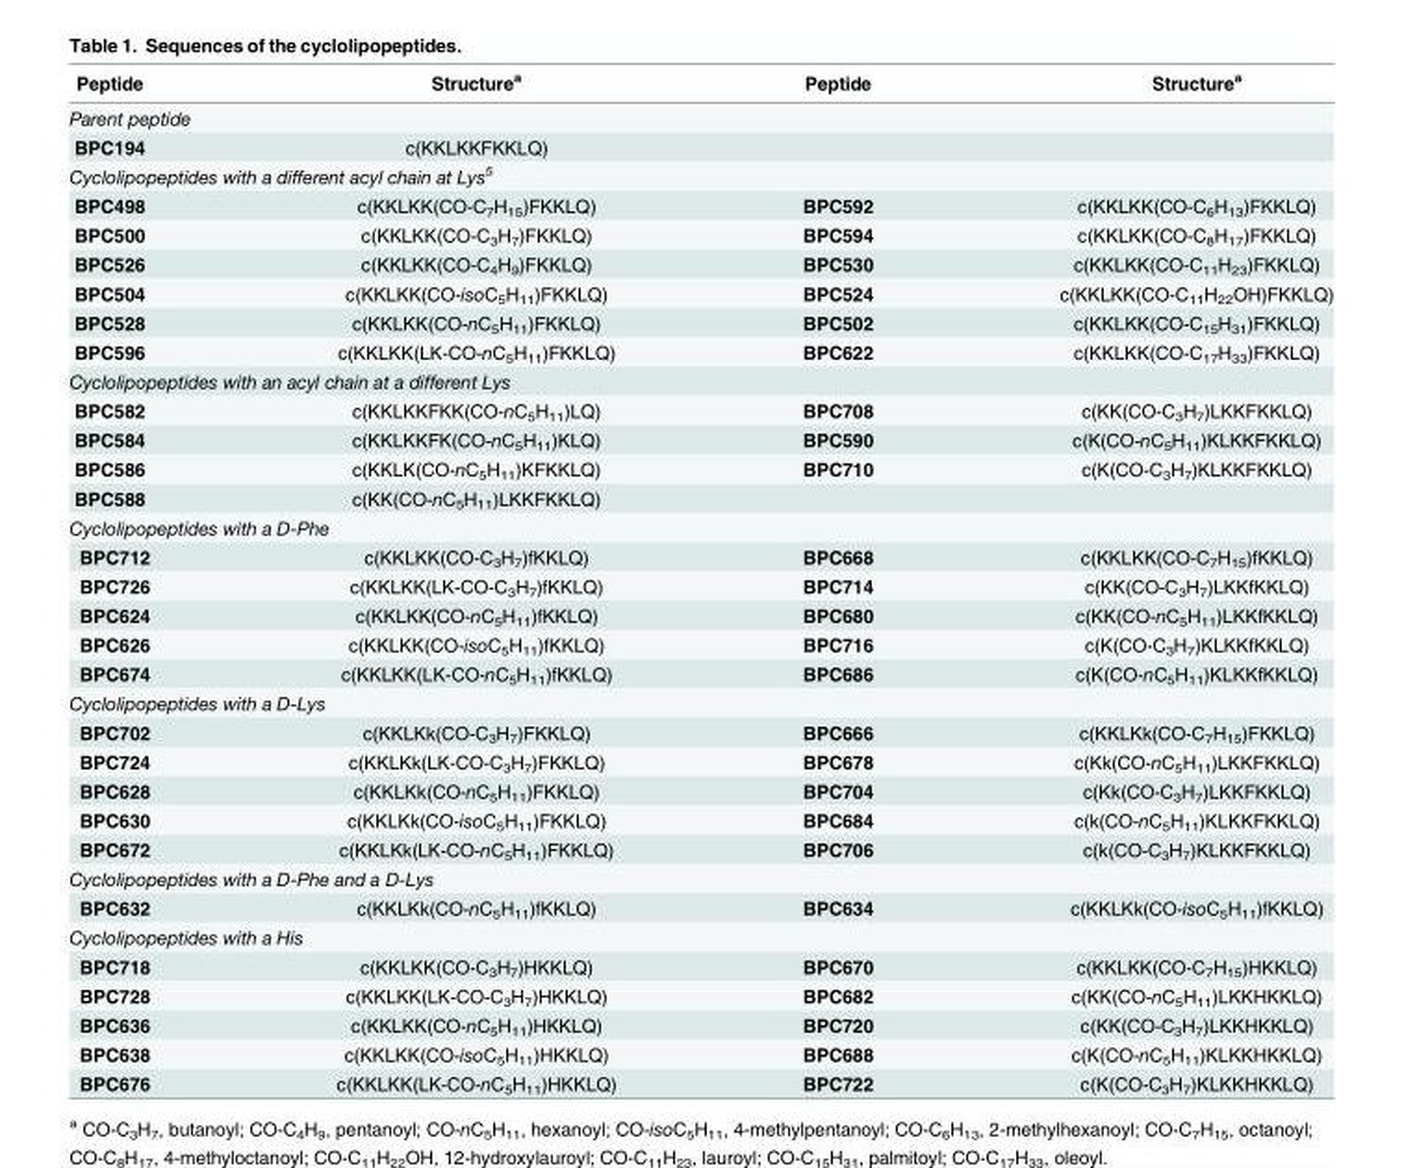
<table><thead><tr><td>Peptide</td><td>Structure<sup>a</sup></td><td>Peptide</td><td>Structure<sup>a</sup></td></tr></thead><tbody><tr><td colspan="4">Parent peptide</td></tr><tr><td>BPC194</td><td>c(KKLKKFKKLQ)</td><td></td><td></td></tr><tr><td colspan="4">Cyclolipopeptides with a different acyl chain at Lys<sup>5</sup></td></tr><tr><td>BPC498</td><td>c(KKLKK(CO-C<sub>7</sub>H<sub>15</sub>)FKKLQ)</td><td>BPC592</td><td>c(KKLKK(CO-C<sub>6</sub>H<sub>13</sub>)FKKLQ)</td></tr><tr><td>BPC500</td><td>c(KKLKK(CO-C<sub>3</sub>H<sub>7</sub>)FKKLQ)</td><td>BPC594</td><td>c(KKLKK(CO-C<sub>8</sub>H<sub>17</sub>)FKKLQ)</td></tr><tr><td>BPC526</td><td>c(KKLKK(CO-C<sub>4</sub>H<sub>9</sub>)FKKLQ)</td><td>BPC530</td><td>c(KKLKK(CO-C<sub>11</sub>H<sub>23</sub>)FKKLQ)</td></tr><tr><td>BPC504</td><td>c(KKLKK(CO-isoC<sub>5</sub>H<sub>11</sub>)FKKLQ)</td><td>BPC524</td><td>c(KKLKK(CO-C<sub>11</sub>H<sub>22</sub>OH)FKKLQ)</td></tr><tr><td>BPC528</td><td>c(KKLKK(CO-nC<sub>5</sub>H<sub>11</sub>)FKKLQ)</td><td>BPC502</td><td>c(KKLKK(CO-C<sub>15</sub>H<sub>31</sub>)FKKLQ)</td></tr><tr><td>BPC596</td><td>c(KKLKK(LK-CO-nC<sub>5</sub>H<sub>11</sub>)FKKLQ)</td><td>BPC622</td><td>c(KKLKK(CO-C<sub>17</sub>H<sub>33</sub>)FKKLQ)</td></tr><tr><td colspan="4">Cyclolipopeptides with an acyl chain at a different Lys</td></tr><tr><td>BPC582</td><td>c(KKLKKFKK(CO-nC<sub>5</sub>H<sub>11</sub>)LQ)</td><td>BPC708</td><td>c(KK(CO-C<sub>3</sub>H<sub>7</sub>)LKKFKKLQ)</td></tr><tr><td>BPC584</td><td>c(KKLKKFK(CO-nC<sub>5</sub>H<sub>11</sub>)KLQ)</td><td>BPC590</td><td>c(K(CO-nC<sub>5</sub>H<sub>11</sub>)KLKKFKKLQ)</td></tr><tr><td>BPC586</td><td>c(KKLK(CO-nC<sub>5</sub>H<sub>11</sub>)KFKKLQ)</td><td>BPC710</td><td>c(K(CO-C<sub>3</sub>H<sub>7</sub>)KLKKFKKLQ)</td></tr><tr><td>BPC588</td><td>c(KK(CO-nC<sub>5</sub>H<sub>11</sub>)LKKFKKLQ)</td><td></td><td></td></tr><tr><td colspan="4">Cyclolipopeptides with a D-Phe</td></tr><tr><td>BPC712</td><td>c(KKLKK(CO-C<sub>3</sub>H<sub>7</sub>)fKKLQ)</td><td>BPC668</td><td>c(KKLKK(CO-C<sub>7</sub>H<sub>15</sub>)fKKLQ)</td></tr><tr><td>BPC726</td><td>c(KKLKK(LK-CO-C<sub>3</sub>H<sub>7</sub>)fKKLQ)</td><td>BPC714</td><td>c(KK(CO-C<sub>3</sub>H<sub>7</sub>)LKKfKKLQ)</td></tr><tr><td>BPC624</td><td>c(KKLKK(CO-nC<sub>5</sub>H<sub>11</sub>)fKKLQ)</td><td>BPC680</td><td>c(KK(CO-nC<sub>5</sub>H<sub>11</sub>)LKKfKKLQ)</td></tr><tr><td>BPC626</td><td>c(KKLKK(CO-isoC<sub>5</sub>H<sub>11</sub>)fKKLQ)</td><td>BPC716</td><td>c(K(CO-C<sub>3</sub>H<sub>7</sub>)KLKKfKKLQ)</td></tr><tr><td>BPC674</td><td>c(KKLKK(LK-CO-nC<sub>5</sub>H<sub>11</sub>)fKKLQ)</td><td>BPC686</td><td>c(K(CO-nC<sub>5</sub>H<sub>11</sub>)KLKKfKKLQ)</td></tr><tr><td colspan="4">Cyclolipopeptides with a D-Lys</td></tr><tr><td>BPC702</td><td>c(KKLKk(CO-C<sub>3</sub>H<sub>7</sub>)FKKLQ)</td><td>BPC666</td><td>c(KKLKk(CO-C<sub>7</sub>H<sub>15</sub>)FKKLQ)</td></tr><tr><td>BPC724</td><td>c(KKLKk(LK-CO-C<sub>3</sub>H<sub>7</sub>)FKKLQ)</td><td>BPC678</td><td>c(Kk(CO-nC<sub>5</sub>H<sub>11</sub>)LKKFKKLQ)</td></tr><tr><td>BPC628</td><td>c(KKLKk(CO-nC<sub>5</sub>H<sub>11</sub>)FKKLQ)</td><td>BPC704</td><td>c(Kk(CO-C<sub>3</sub>H<sub>7</sub>)LKKFKKLQ)</td></tr><tr><td>BPC630</td><td>c(KKLKk(CO-isoC<sub>5</sub>H<sub>11</sub>)FKKLQ)</td><td>BPC684</td><td>c(k(CO-nC<sub>5</sub>H<sub>11</sub>)KLKKFKKLQ)</td></tr><tr><td>BPC672</td><td>c(KKLKk(LK-CO-nC<sub>5</sub>H<sub>11</sub>)FKKLQ)</td><td>BPC706</td><td>c(k(CO-C<sub>3</sub>H<sub>7</sub>)KLKKFKKLQ)</td></tr><tr><td colspan="4">Cyclolipopeptides with a D-Phe and a D-Lys</td></tr><tr><td>BPC632</td><td>c(KKLKk(CO-nC<sub>5</sub>H<sub>11</sub>)fKKLQ)</td><td>BPC634</td><td>c(KKLKk(CO-isoC<sub>5</sub>H<sub>11</sub>)fKKLQ)</td></tr><tr><td colspan="4">Cyclolipopeptides with a His</td></tr><tr><td>BPC718</td><td>c(KKLKK(CO-C<sub>3</sub>H<sub>7</sub>)HKKLQ)</td><td>BPC670</td><td>c(KKLKK(CO-C<sub>7</sub>H<sub>15</sub>)HKKLQ)</td></tr><tr><td>BPC728</td><td>c(KKLKK(LK-CO-C<sub>3</sub>H<sub>7</sub>)HKKLQ)</td><td>BPC682</td><td>c(KK(CO-nC<sub>5</sub>H<sub>11</sub>)LKKHKKLQ)</td></tr><tr><td>BPC636</td><td>c(KKLKK(CO-nC<sub>5</sub>H<sub>11</sub>)HKKLQ)</td><td>BPC720</td><td>c(KK(CO-C<sub>3</sub>H<sub>7</sub>)LKKHKKLQ)</td></tr><tr><td>BPC638</td><td>c(KKLKK(CO-isoC<sub>5</sub>H<sub>11</sub>)HKKLQ)</td><td>BPC688</td><td>c(K(CO-nC<sub>5</sub>H<sub>11</sub>)KLKKHKKLQ)</td></tr><tr><td>BPC676</td><td>c(KKLKK(LK-CO-nC<sub>5</sub>H<sub>11</sub>)HKKLQ)</td><td>BPC722</td><td>c(K(CO-C<sub>3</sub>H<sub>7</sub>)KLKKHKKLQ)</td></tr></tbody></table>